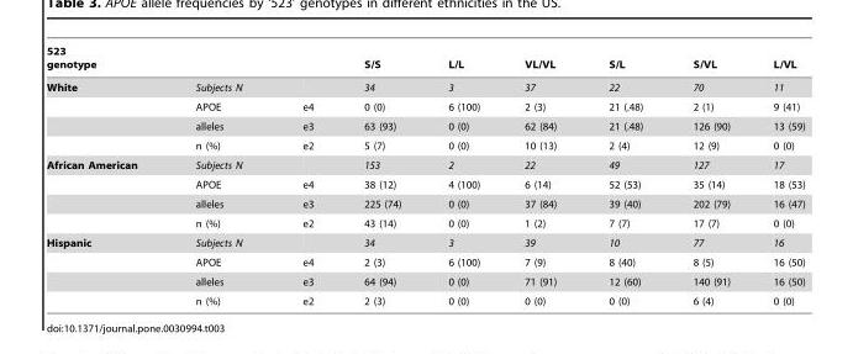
<table><thead><tr><td colspan="3">523 genotype</td><td rowspan="2">S/S 34</td><td rowspan="2">L/L 3</td><td rowspan="2">VL/VL 37</td><td rowspan="2">S/L 22</td><td rowspan="2">S/VL 70</td><td rowspan="2">L/VL 11</td></tr><tr><td>White</td><td>Subjects N</td><td></td></tr></thead><tbody><tr><td></td><td>APOE</td><td>e4</td><td>0 (0)</td><td>6 (100)</td><td>2 (3)</td><td>21 (.48)</td><td>2 (1)</td><td>9 (41)</td></tr><tr><td></td><td>alleles</td><td>e3</td><td>63 (93)</td><td>0 (0)</td><td>62 (84)</td><td>21 (.48)</td><td>126 (90)</td><td>13 (59)</td></tr><tr><td></td><td>n (%)</td><td>e2</td><td>5 (7)</td><td>0 (0)</td><td>10 (13)</td><td>2 (4)</td><td>12 (9)</td><td>0 (0)</td></tr><tr><td rowspan="4">African American</td><td>Subjects N</td><td></td><td>153</td><td>2</td><td>22</td><td>49</td><td>127</td><td>17</td></tr><tr><td>APOE</td><td>e4</td><td>38 (12)</td><td>4 (100)</td><td>6 (14)</td><td>52 (53)</td><td>35 (14)</td><td>18 (53)</td></tr><tr><td>alleles</td><td>e3</td><td>225 (74)</td><td>0 (0)</td><td>37 (84)</td><td>39 (40)</td><td>202 (79)</td><td>16 (47)</td></tr><tr><td>n (%)</td><td>e2</td><td>43 (14)</td><td>0 (0)</td><td>1 (2)</td><td>7 (7)</td><td>17 (7)</td><td>0 (0)</td></tr><tr><td rowspan="4">Hispanic</td><td>Subjects N</td><td></td><td>34</td><td>3</td><td>39</td><td>10</td><td>77</td><td>16</td></tr><tr><td>APOE</td><td>e4</td><td>2 (3)</td><td>6 (100)</td><td>7 (9)</td><td>8 (40)</td><td>8 (5)</td><td>16 (50)</td></tr><tr><td>alleles</td><td>e3</td><td>64 (94)</td><td>0 (0)</td><td>71 (91)</td><td>12 (60)</td><td>140 (91)</td><td>16 (50)</td></tr><tr><td>n (%)</td><td>e2</td><td>2 (3)</td><td>0 (0)</td><td>0 (0)</td><td>0 (0)</td><td>6 (4)</td><td>0 (0)</td></tr></tbody></table>